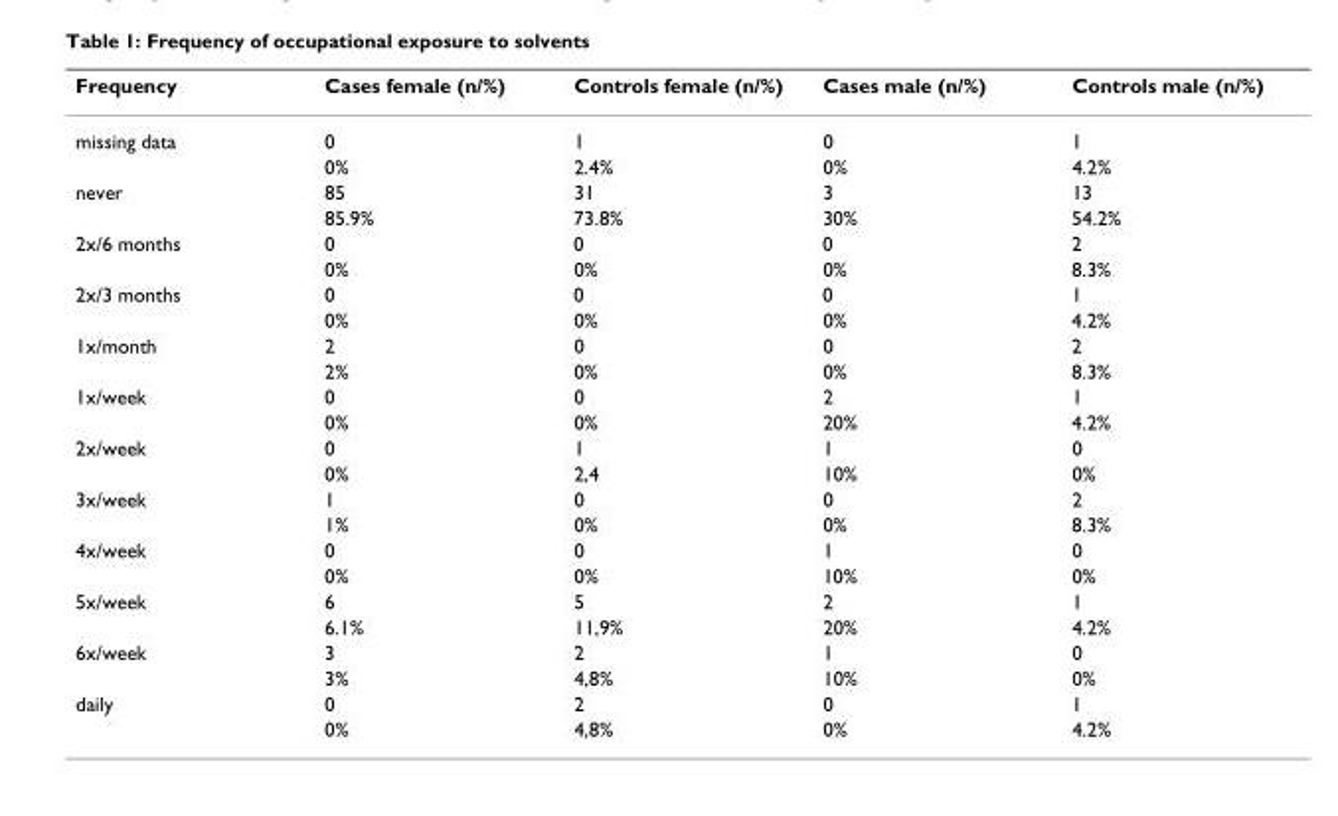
<table><thead><tr><td>Frequency</td><td>Cases female (n/%)</td><td>Controls female (n/%)</td><td>Cases male (n/%)</td><td>Controls male (n/%)</td></tr></thead><tbody><tr><td rowspan="2">missing data</td><td>0</td><td>1</td><td>0</td><td>1</td></tr><tr><td>0%</td><td>2.4%</td><td>0%</td><td>4.2%</td></tr><tr><td rowspan="2">never</td><td>85</td><td>31</td><td>3</td><td>13</td></tr><tr><td>85.9%</td><td>73.8%</td><td>30%</td><td>54.2%</td></tr><tr><td rowspan="2">2x/6 months</td><td>0</td><td>0</td><td>0</td><td>2</td></tr><tr><td>0%</td><td>0%</td><td>0%</td><td>8.3%</td></tr><tr><td rowspan="2">2x/3 months</td><td>0</td><td>0</td><td>0</td><td>1</td></tr><tr><td>0%</td><td>0%</td><td>0%</td><td>4.2%</td></tr><tr><td rowspan="2">1x/month</td><td>2</td><td>0</td><td>0</td><td>2</td></tr><tr><td>2%</td><td>0%</td><td>0%</td><td>8.3%</td></tr><tr><td rowspan="2">1x/week</td><td>0</td><td>0</td><td>2</td><td>1</td></tr><tr><td>0%</td><td>0%</td><td>20%</td><td>4.2%</td></tr><tr><td rowspan="2">2x/week</td><td>0</td><td>1</td><td>1</td><td>0</td></tr><tr><td>0%</td><td>2,4</td><td>10%</td><td>0%</td></tr><tr><td rowspan="2">3x/week</td><td>1</td><td>0</td><td>0</td><td>2</td></tr><tr><td>1%</td><td>0%</td><td>0%</td><td>8.3%</td></tr><tr><td rowspan="2">4x/week</td><td>0</td><td>0</td><td>1</td><td>0</td></tr><tr><td>0%</td><td>0%</td><td>10%</td><td>0%</td></tr><tr><td rowspan="2">5x/week</td><td>6</td><td>5</td><td>2</td><td>1</td></tr><tr><td>6.1%</td><td>11,9%</td><td>20%</td><td>4.2%</td></tr><tr><td rowspan="2">6x/week</td><td>3</td><td>2</td><td>1</td><td>0</td></tr><tr><td>3%</td><td>4,8%</td><td>10%</td><td>0%</td></tr><tr><td rowspan="2">daily</td><td>0</td><td>2</td><td>0</td><td>1</td></tr><tr><td>0%</td><td>4,8%</td><td>0%</td><td>4.2%</td></tr></tbody></table>